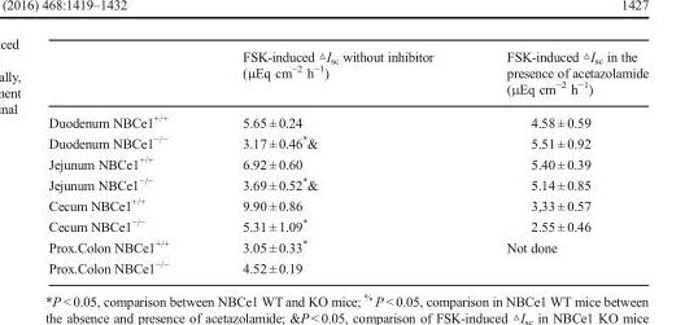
<table><thead><tr><td></td><td>FSK-induced △I<sub>sc</sub> without inhibitor (μEq cm<sup>−2</sup> h<sup>−1</sup>)</td><td>FSK-induced △I<sub>sc</sub> in the presence of acetazolamide (μEq cm<sup>−2</sup> h<sup>−1</sup>)</td></tr></thead><tbody><tr><td>Duodenum NBCe1<sup>+/+</sup></td><td>5.65 ± 0.24</td><td>4.58 ± 0.59</td></tr><tr><td>Duodenum NBCe1<sup>−/−</sup></td><td>3.17 ± 0.46*&amp;</td><td>5.51 ± 0.92</td></tr><tr><td>Jejunum NBCe1<sup>+/+</sup></td><td>6.92 ± 0.60</td><td>5.40 ± 0.39</td></tr><tr><td>Jejunum NBCe1<sup>−/−</sup></td><td>3.69 ± 0.52*&amp;</td><td>5.14 ± 0.85</td></tr><tr><td>Cecum NBCe1<sup>+/+</sup></td><td>9.90 ± 0.86</td><td>3,33 ± 0.57</td></tr><tr><td>Cecum NBCe1<sup>−/−</sup></td><td>5.31 ± 1.09*</td><td>2.55 ± 0.46</td></tr><tr><td>Prox.Colon NBCe1<sup>+/+</sup></td><td>3.05 ± 0.33*</td><td>Not done</td></tr><tr><td>Prox.Colon NBCe1<sup>−/−</sup></td><td>4.52 ± 0.19</td><td></td></tr></tbody></table>